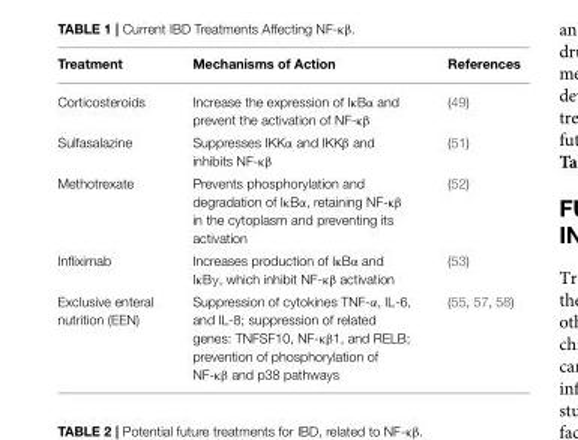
<table><thead><tr><td>Treatment</td><td>Mechanisms of Action</td><td>References</td></tr></thead><tbody><tr><td>Corticosteroids</td><td>Increase the expression of IκBα and prevent the activation of NF-κβ</td><td>(49)</td></tr><tr><td>Sulfasalazine</td><td>Suppresses IKKα and IKKβ and inhibits NF-κβ</td><td>(51)</td></tr><tr><td>Methotrexate</td><td>Prevents phosphorylation and degradation of IκBα, retaining NF-κβ in the cytoplasm and preventing its activation</td><td>(52)</td></tr><tr><td>Infliximab</td><td>Increases production of IκBα and IκBγ, which inhibit NF-κβ activation</td><td>(53)</td></tr><tr><td>Exclusive enteral nutrition (EEN)</td><td>Suppression of cytokines TNF-α, IL-6, and IL-8; suppression of related genes: TNFSF10, NF-κβ1, and RELB; prevention of phosphorylation of NF-κβ and p38 pathways</td><td>(55, 57, 58)</td></tr></tbody></table>